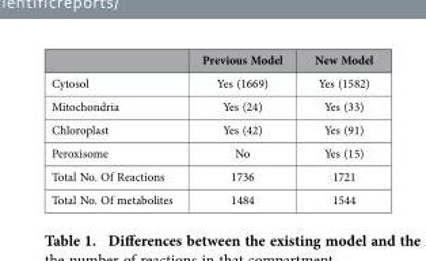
<table><thead><tr><td></td><td>Previous Model</td><td>New Model</td></tr></thead><tbody><tr><td>Cytosol</td><td>Yes (1669)</td><td>Yes (1582)</td></tr><tr><td>Mitochondria</td><td>Yes (24)</td><td>Yes (33)</td></tr><tr><td>Chloroplast</td><td>Yes (42)</td><td>Yes (91)</td></tr><tr><td>Peroxisome</td><td>No</td><td>Yes (15)</td></tr><tr><td>Total No. Of Reactions</td><td>1736</td><td>1721</td></tr><tr><td>Total No. Of metabolites</td><td>1484</td><td>1544</td></tr></tbody></table>